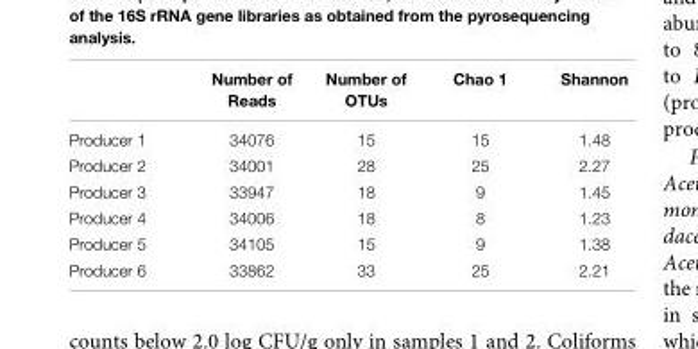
<table><thead><tr><td></td><td>Number of Reads</td><td>Number of OTUs</td><td>Chao 1</td><td>Shannon</td></tr></thead><tbody><tr><td>Producer 1</td><td>34076</td><td>15</td><td>15</td><td>1.48</td></tr><tr><td>Producer 2</td><td>34001</td><td>28</td><td>25</td><td>2.27</td></tr><tr><td>Producer 3</td><td>33947</td><td>18</td><td>9</td><td>1.45</td></tr><tr><td>Producer 4</td><td>34006</td><td>18</td><td>8</td><td>1.23</td></tr><tr><td>Producer 5</td><td>34105</td><td>15</td><td>9</td><td>1.38</td></tr><tr><td>Producer 6</td><td>33862</td><td>33</td><td>25</td><td>2.21</td></tr></tbody></table>